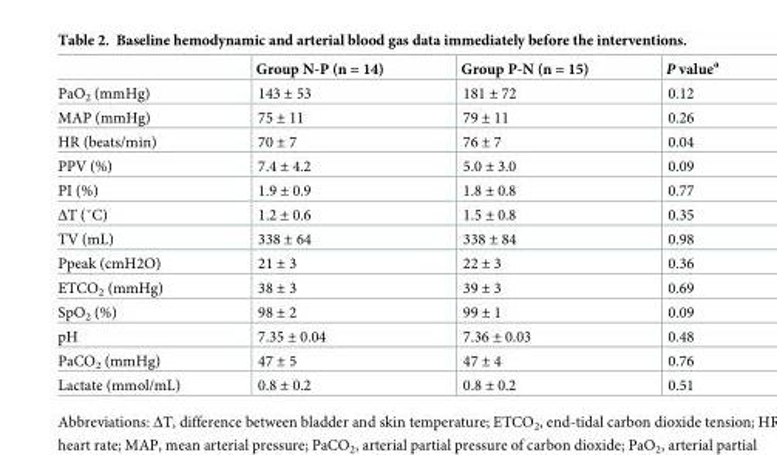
<table><thead><tr><td></td><td>Group N-P (n = 14)</td><td>Group P-N (n = 15)</td><td>P value<sup>a</sup></td></tr></thead><tbody><tr><td>PaO<sub>2</sub> (mmHg)</td><td>143 ± 53</td><td>181 ± 72</td><td>0.12</td></tr><tr><td>MAP (mmHg)</td><td>75 ± 11</td><td>79 ± 11</td><td>0.26</td></tr><tr><td>HR (beats/min)</td><td>70 ± 7</td><td>76 ± 7</td><td>0.04</td></tr><tr><td>PPV (%)</td><td>7.4 ± 4.2</td><td>5.0 ± 3.0</td><td>0.09</td></tr><tr><td>PI (%)</td><td>1.9 ± 0.9</td><td>1.8 ± 0.8</td><td>0.77</td></tr><tr><td>ΔT (˚C)</td><td>1.2 ± 0.6</td><td>1.5 ± 0.8</td><td>0.35</td></tr><tr><td>TV (mL)</td><td>338 ± 64</td><td>338 ± 84</td><td>0.98</td></tr><tr><td>Ppeak (cmH2O)</td><td>21 ± 3</td><td>22 ± 3</td><td>0.36</td></tr><tr><td>ETCO<sub>2</sub> (mmHg)</td><td>38 ± 3</td><td>39 ± 3</td><td>0.69</td></tr><tr><td>SpO<sub>2</sub> (%)</td><td>98 ± 2</td><td>99 ± 1</td><td>0.09</td></tr><tr><td>pH</td><td>7.35 ± 0.04</td><td>7.36 ± 0.03</td><td>0.48</td></tr><tr><td>PaCO<sub>2</sub> (mmHg)</td><td>47 ± 5</td><td>47 ± 4</td><td>0.76</td></tr><tr><td>Lactate (mmol/mL)</td><td>0.8 ± 0.2</td><td>0.8 ± 0.2</td><td>0.51</td></tr></tbody></table>